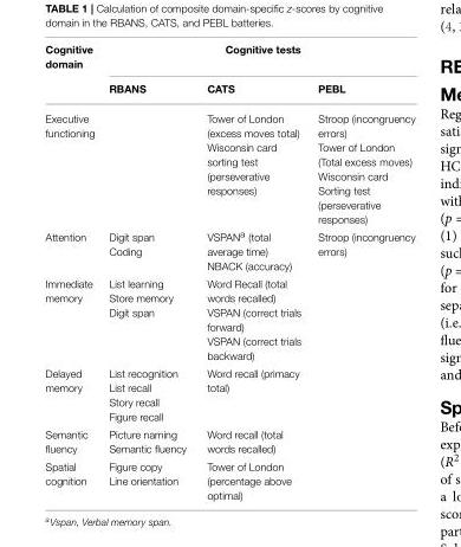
<table><thead><tr><td rowspan="2">Cognitive domain</td><td colspan="3">Cognitive tests</td></tr><tr><td>RBANS</td><td>CATS</td><td>PEBL</td></tr></thead><tbody><tr><td>Executive functioning</td><td></td><td>Tower of London (excess moves total) Wisconsin card sorting test (perseverative responses)</td><td>Stroop (incongruency errors) Tower of London (Total excess moves) Wisconsin card Sorting test (perseverative responses)</td></tr><tr><td>Attention</td><td>Digit span Coding</td><td>VSPAN<sup>a</sup> (total average time) NBACK (accuracy)</td><td>Stroop (incongruency errors)</td></tr><tr><td>Immediate memory</td><td>List learning Store memory Digit span</td><td>Word Recall (total words recalled) VSPAN (correct trials forward) VSPAN (correct trials backward)</td><td></td></tr><tr><td>Delayed memory</td><td>List recognition List recall Story recall Figure recall</td><td>Word recall (primacy total)</td><td></td></tr><tr><td>Semantic fluency</td><td>Picture naming Semantic fluency</td><td>Word recall (total words recalled)</td><td></td></tr><tr><td>Spatial cognition</td><td>Figure copy Line orientation</td><td>Tower of London (percentage above optimal)</td><td></td></tr></tbody></table>